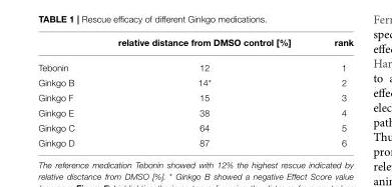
<table><thead><tr><td></td><td>relative distance from DMSO control [%]</td><td>rank</td></tr></thead><tbody><tr><td>Tebonin</td><td>12</td><td>1</td></tr><tr><td>Ginkgo B</td><td>14*</td><td>2</td></tr><tr><td>Ginkgo F</td><td>15</td><td>3</td></tr><tr><td>Ginkgo E</td><td>38</td><td>4</td></tr><tr><td>Ginkgo C</td><td>64</td><td>5</td></tr><tr><td>Ginkgo D</td><td>87</td><td>6</td></tr></tbody></table>